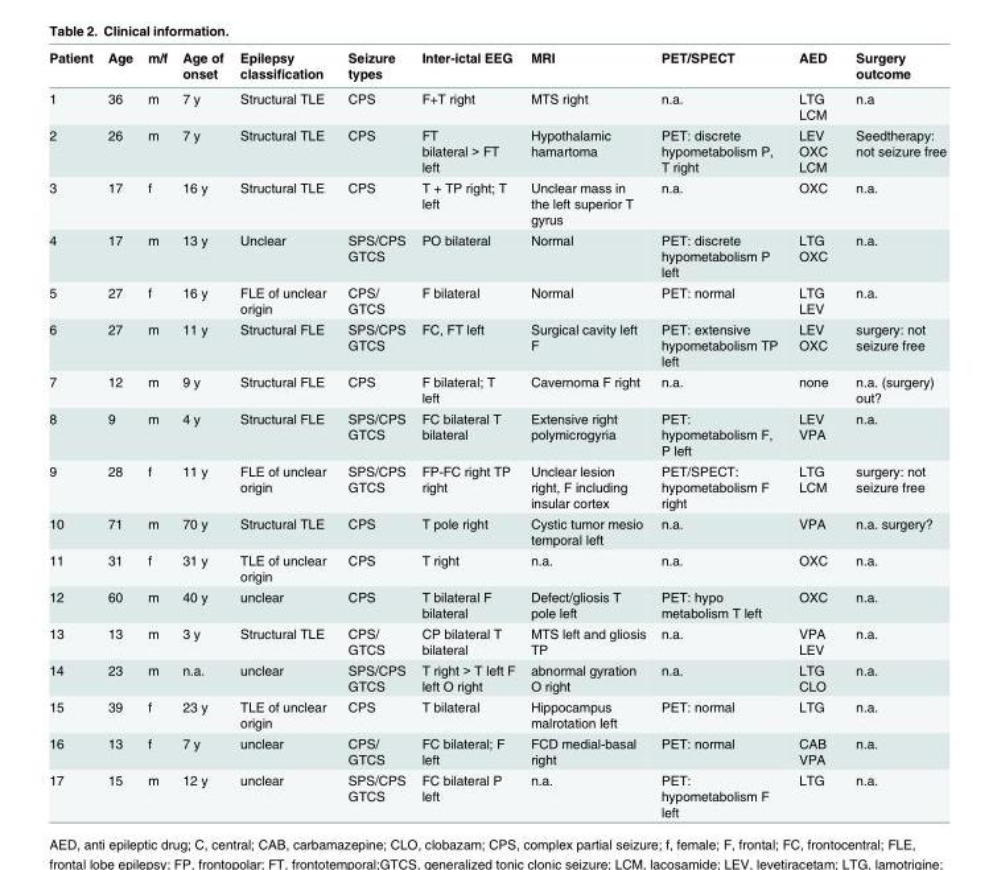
<table><thead><tr><td>Patient</td><td>Age</td><td>m/f</td><td>Age of onset</td><td>Epilepsy classification</td><td>Seizure types</td><td>Inter-ictal EEG</td><td>MRI</td><td>PET/SPECT</td><td>AED</td><td>Surgery outcome</td></tr></thead><tbody><tr><td>1</td><td>36</td><td>m</td><td>7 y</td><td>Structural TLE</td><td>CPS</td><td>F+T right</td><td>MTS right</td><td>n.a.</td><td>LTG LCM</td><td>n.a</td></tr><tr><td>2</td><td>26</td><td>m</td><td>7 y</td><td>Structural TLE</td><td>CPS</td><td>FT bilateral &gt; FT left</td><td>Hypothalamic hamartoma</td><td>PET: discrete hypometabolism P, T right</td><td>LEV OXC LCM</td><td>Seedtherapy: not seizure free</td></tr><tr><td>3</td><td>17</td><td>f</td><td>16 y</td><td>Structural TLE</td><td>CPS</td><td>T + TP right; T left</td><td>Unclear mass in the left superior T gyrus</td><td>n.a.</td><td>OXC</td><td>n.a.</td></tr><tr><td>4</td><td>17</td><td>m</td><td>13 y</td><td>Unclear</td><td>SPS/CPS GTCS</td><td>PO bilateral</td><td>Normal</td><td>PET: discrete hypometabolism P left</td><td>LTG OXC</td><td>n.a.</td></tr><tr><td>5</td><td>27</td><td>f</td><td>16 y</td><td>FLE of unclear origin</td><td>CPS/ GTCS</td><td>F bilateral</td><td>Normal</td><td>PET: normal</td><td>LTG LEV</td><td>n.a.</td></tr><tr><td>6</td><td>27</td><td>m</td><td>11 y</td><td>Structural FLE</td><td>SPS/CPS GTCS</td><td>FC, FT left</td><td>Surgical cavity left F</td><td>PET: extensive hypometabolism TP left</td><td>LEV OXC</td><td>surgery: not seizure free</td></tr><tr><td>7</td><td>12</td><td>m</td><td>9 y</td><td>Structural FLE</td><td>CPS</td><td>F bilateral; T left</td><td>Cavernoma F right</td><td>n.a.</td><td>none</td><td>n.a. (surgery) out?</td></tr><tr><td>8</td><td>9</td><td>m</td><td>4 y</td><td>Structural FLE</td><td>SPS/CPS GTCS</td><td>FC bilateral T bilateral</td><td>Extensive right polymicrogyria</td><td>PET: hypometabolism F, P left</td><td>LEV VPA</td><td>n.a.</td></tr><tr><td>9</td><td>28</td><td>f</td><td>11 y</td><td>FLE of unclear origin</td><td>SPS/CPS GTCS</td><td>FP-FC right TP right</td><td>Unclear lesion right, F including insular cortex</td><td>PET/SPECT: hypometabolism F right</td><td>LTG LCM</td><td>surgery: not seizure free</td></tr><tr><td>10</td><td>71</td><td>m</td><td>70 y</td><td>Structural TLE</td><td>CPS</td><td>T pole right</td><td>Cystic tumor mesio temporal left</td><td>n.a.</td><td>VPA</td><td>n.a. surgery?</td></tr><tr><td>11</td><td>31</td><td>f</td><td>31 y</td><td>TLE of unclear origin</td><td>CPS</td><td>T right</td><td>n.a.</td><td>n.a.</td><td>OXC</td><td>n.a.</td></tr><tr><td>12</td><td>60</td><td>m</td><td>40 y</td><td>unclear</td><td>CPS</td><td>T bilateral F bilateral</td><td>Defect/gliosis T pole left</td><td>PET: hypo metabolism T left</td><td>OXC</td><td>n.a.</td></tr><tr><td>13</td><td>13</td><td>m</td><td>3 y</td><td>Structural TLE</td><td>CPS/ GTCS</td><td>CP bilateral T bilateral</td><td>MTS left and gliosis TP</td><td>n.a.</td><td>VPA LEV</td><td>n.a.</td></tr><tr><td>14</td><td>23</td><td>m</td><td>n.a.</td><td>unclear</td><td>SPS/CPS GTCS</td><td>T right &gt; T left F left O right</td><td>abnormal gyration O right</td><td>n.a.</td><td>LTG CLO</td><td>n.a.</td></tr><tr><td>15</td><td>39</td><td>f</td><td>23 y</td><td>TLE of unclear origin</td><td>CPS</td><td>T bilateral</td><td>Hippocampus malrotation left</td><td>PET: normal</td><td>LTG</td><td>n.a.</td></tr><tr><td>16</td><td>13</td><td>f</td><td>7 y</td><td>unclear</td><td>CPS/ GTCS</td><td>FC bilateral; F left</td><td>FCD medial-basal right</td><td>PET: normal</td><td>CAB VPA</td><td>n.a.</td></tr><tr><td>17</td><td>15</td><td>m</td><td>12 y</td><td>unclear</td><td>SPS/CPS GTCS</td><td>FC bilateral P left</td><td>n.a.</td><td>PET: hypometabolism F left</td><td>LTG</td><td>n.a.</td></tr></tbody></table>